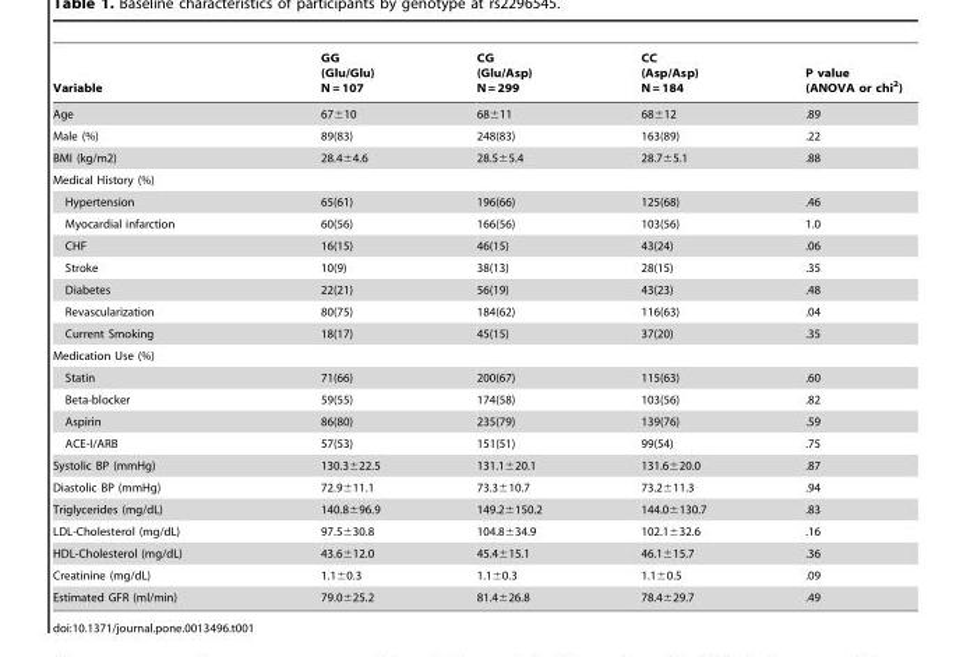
<table><thead><tr><td>Variable</td><td>GG (Glu/Glu) N = 107</td><td>CG (Glu/Asp) N = 299</td><td>CC (Asp/Asp) N = 184</td><td>P value (ANOVA or chi<sup>2</sup>)</td></tr></thead><tbody><tr><td>Age</td><td>67±10</td><td>68±11</td><td>68±12</td><td>.89</td></tr><tr><td>Male (%)</td><td>89(83)</td><td>248(83)</td><td>163(89)</td><td>.22</td></tr><tr><td>BMI (kg/m2)</td><td>28.4±4.6</td><td>28.5±5.4</td><td>28.7±5.1</td><td>.88</td></tr><tr><td colspan="5">Medical History (%)</td></tr><tr><td>Hypertension</td><td>65(61)</td><td>196(66)</td><td>125(68)</td><td>.46</td></tr><tr><td>Myocardial infarction</td><td>60(56)</td><td>166(56)</td><td>103(56)</td><td>1.0</td></tr><tr><td>CHF</td><td>16(15)</td><td>46(15)</td><td>43(24)</td><td>.06</td></tr><tr><td>Stroke</td><td>10(9)</td><td>38(13)</td><td>28(15)</td><td>.35</td></tr><tr><td>Diabetes</td><td>22(21)</td><td>56(19)</td><td>43(23)</td><td>.48</td></tr><tr><td>Revascularization</td><td>80(75)</td><td>184(62)</td><td>116(63)</td><td>.04</td></tr><tr><td>Current Smoking</td><td>18(17)</td><td>45(15)</td><td>37(20)</td><td>.35</td></tr><tr><td colspan="5">Medication Use (%)</td></tr><tr><td>Statin</td><td>71(66)</td><td>200(67)</td><td>115(63)</td><td>.60</td></tr><tr><td>Beta-blocker</td><td>59(55)</td><td>174(58)</td><td>103(56)</td><td>.82</td></tr><tr><td>Aspirin</td><td>86(80)</td><td>235(79)</td><td>139(76)</td><td>.59</td></tr><tr><td>ACE-I/ARB</td><td>57(53)</td><td>151(51)</td><td>99(54)</td><td>.75</td></tr><tr><td>Systolic BP (mmHg)</td><td>130.3±22.5</td><td>131.1±20.1</td><td>131.6±20.0</td><td>.87</td></tr><tr><td>Diastolic BP (mmHg)</td><td>72.9±11.1</td><td>73.3±10.7</td><td>73.2±11.3</td><td>.94</td></tr><tr><td>Triglycerides (mg/dL)</td><td>140.8±96.9</td><td>149.2±150.2</td><td>144.0±130.7</td><td>.83</td></tr><tr><td>LDL-Cholesterol (mg/dL)</td><td>97.5±30.8</td><td>104.8±34.9</td><td>102.1±32.6</td><td>.16</td></tr><tr><td>HDL-Cholesterol (mg/dL)</td><td>43.6±12.0</td><td>45.4±15.1</td><td>46.1±15.7</td><td>.36</td></tr><tr><td>Creatinine (mg/dL)</td><td>1.1±0.3</td><td>1.1±0.3</td><td>1.1±0.5</td><td>.09</td></tr><tr><td>Estimated GFR (ml/min)</td><td>79.0±25.2</td><td>81.4±26.8</td><td>78.4±29.7</td><td>.49</td></tr></tbody></table>